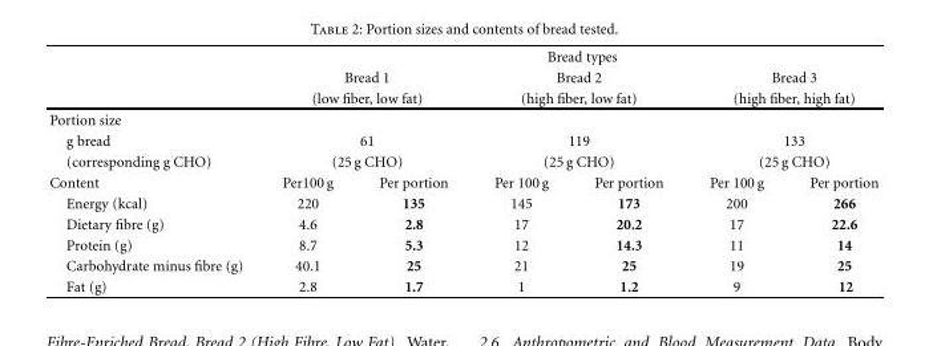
<table><thead><tr><td rowspan="4">Portion size</td><td colspan="6">Bread types</td></tr><tr><td rowspan="2" colspan="2">Bread 1 (low fiber, low fat)</td><td rowspan="2" colspan="2">Bread 2 (high fiber, low fat)</td><td rowspan="2" colspan="2">Bread 3 (high fiber, high fat)</td></tr><tr></tr><tr><td></td><td></td><td></td><td></td><td></td><td></td></tr></thead><tbody><tr><td>g bread</td><td colspan="2">61</td><td colspan="2">119</td><td colspan="2">133</td></tr><tr><td>(corresponding g CHO)</td><td colspan="2">(25 g CHO)</td><td colspan="2">(25 g CHO)</td><td colspan="2">(25 g CHO)</td></tr><tr><td>Content</td><td>Per100 g</td><td>Per portion</td><td>Per 100 g</td><td>Per portion</td><td>Per 100 g</td><td>Per portion</td></tr><tr><td>Energy (kcal)</td><td>220</td><td>135</td><td>145</td><td>173</td><td>200</td><td>266</td></tr><tr><td>Dietary fibre (g)</td><td>4.6</td><td>2.8</td><td>17</td><td>20.2</td><td>17</td><td>22.6</td></tr><tr><td>Protein (g)</td><td>8.7</td><td>5.3</td><td>12</td><td>14.3</td><td>11</td><td>14</td></tr><tr><td>Carbohydrate minus fibre (g)</td><td>40.1</td><td>25</td><td>21</td><td>25</td><td>19</td><td>25</td></tr><tr><td>Fat (g)</td><td>2.8</td><td>1.7</td><td>1</td><td>1.2</td><td>9</td><td>12</td></tr></tbody></table>